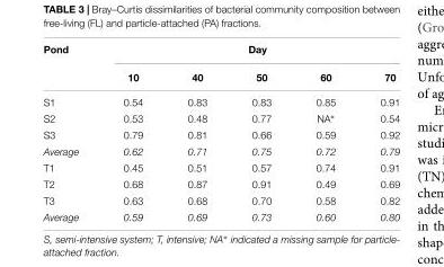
<table><thead><tr><td rowspan="2">Pond</td><td colspan="5">Day</td></tr><tr><td>10</td><td>40</td><td>50</td><td>60</td><td>70</td></tr></thead><tbody><tr><td>S1</td><td>0.54</td><td>0.83</td><td>0.83</td><td>0.85</td><td>0.91</td></tr><tr><td>S2</td><td>0.53</td><td>0.48</td><td>0.77</td><td>NA∗</td><td>0.54</td></tr><tr><td>S3</td><td>0.79</td><td>0.81</td><td>0.66</td><td>0.59</td><td>0.92</td></tr><tr><td>Average</td><td>0.62</td><td>0.71</td><td>0.75</td><td>0.72</td><td>0.79</td></tr><tr><td>T1</td><td>0.45</td><td>0.51</td><td>0.57</td><td>0.74</td><td>0.91</td></tr><tr><td>T2</td><td>0.68</td><td>0.87</td><td>0.91</td><td>0.49</td><td>0.69</td></tr><tr><td>T3</td><td>0.63</td><td>0.68</td><td>0.70</td><td>0.58</td><td>0.82</td></tr><tr><td>Average</td><td>0.59</td><td>0.69</td><td>0.73</td><td>0.60</td><td>0.80</td></tr></tbody></table>